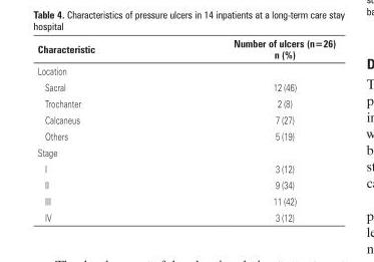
<table><thead><tr><td>Characteristic</td><td>Number of ulcers (n=26) n (%)</td></tr></thead><tbody><tr><td colspan="2">Location</td></tr><tr><td>Sacral</td><td>12 (46)</td></tr><tr><td>Trochanter</td><td>2 (8)</td></tr><tr><td>Calcaneus</td><td>7 (27)</td></tr><tr><td>Others</td><td>5 (19)</td></tr><tr><td colspan="2">Stage</td></tr><tr><td>I</td><td>3 (12)</td></tr><tr><td>II</td><td>9 (34)</td></tr><tr><td>III</td><td>11 (42)</td></tr><tr><td>IV</td><td>3 (12)</td></tr></tbody></table>